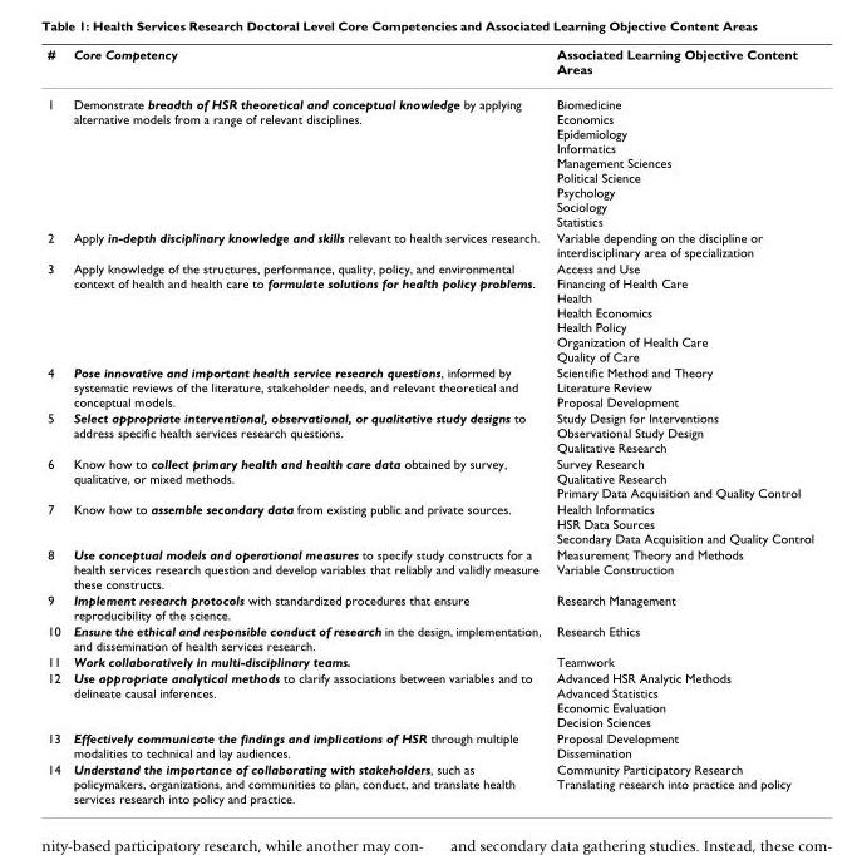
<table><thead><tr><td>#</td><td>Core Competency</td><td>Associated Learning Objective Content Areas</td></tr></thead><tbody><tr><td>1</td><td>Demonstrate breadth of HSR theoretical and conceptual knowledge by applying alternative models from a range of relevant disciplines.</td><td>Biomedicine Economics Epidemiology Informatics Management Sciences Political Science Psychology Sociology Statistics</td></tr><tr><td>2</td><td>Apply in-depth disciplinary knowledge and skills relevant to health services research.</td><td>Variable depending on the discipline or interdisciplinary area of specialization</td></tr><tr><td>3</td><td>Apply knowledge of the structures, performance, quality, policy, and environmental context of health and health care to formulate solutions for health policy problems.</td><td>Access and Use Financing of Health Care Health Health Economics Health Policy Organization of Health Care Quality of Care</td></tr><tr><td>4</td><td>Pose innovative and important health service research questions, informed by systematic reviews of the literature, stakeholder needs, and relevant theoretical and conceptual models.</td><td>Scientific Method and Theory Literature Review Proposal Development</td></tr><tr><td>5</td><td>Select appropriate interventional, observational, or qualitative study designs to address specific health services research questions.</td><td>Study Design for Interventions Observational Study Design Qualitative Research</td></tr><tr><td>6</td><td>Know how to collect primary health and health care data obtained by survey, qualitative, or mixed methods.</td><td>Survey Research Qualitative Research Primary Data Acquisition and Quality Control</td></tr><tr><td>7</td><td>Know how to assemble secondary data from existing public and private sources.</td><td>Health Informatics HSR Data Sources Secondary Data Acquisition and Quality Control</td></tr><tr><td>8</td><td>Use conceptual models and operational measures to specify study constructs for a health services research question and develop variables that reliably and validly measure these constructs.</td><td>Measurement Theory and Methods Variable Construction</td></tr><tr><td>9</td><td>Implement research protocols with standardized procedures that ensure reproducibility of the science.</td><td>Research Management</td></tr><tr><td>10</td><td>Ensure the ethical and responsible conduct of research in the design, implementation, and dissemination of health services research.</td><td>Research Ethics</td></tr><tr><td>11</td><td>Work collaboratively in multi-disciplinary teams.</td><td>Teamwork</td></tr><tr><td>12</td><td>Use appropriate analytical methods to clarify associations between variables and to delineate causal inferences.</td><td>Advanced HSR Analytic Methods Advanced Statistics Economic Evaluation Decision Sciences</td></tr><tr><td>13</td><td>Effectively communicate the findings and implications of HSR through multiple modalities to technical and lay audiences.</td><td>Proposal Development Dissemination</td></tr><tr><td>14</td><td>Understand the importance of collaborating with stakeholders, such as policymakers, organizations, and communities to plan, conduct, and translate health services research into policy and practice.</td><td>Community Participatory Research Translating research into practice and policy</td></tr></tbody></table>